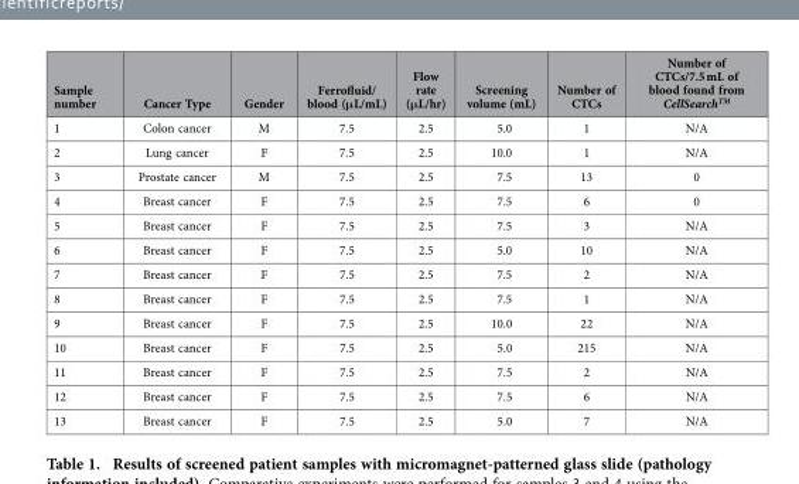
<table><thead><tr><td>Sample number</td><td>Cancer Type</td><td>Gender</td><td>Ferrofluid/ blood (μL/mL)</td><td>Flow rate (μL/hr)</td><td>Screening volume (mL)</td><td>Number of CTCs</td><td>Number of CTCs/7.5 mL of blood found from CellSearch<sup>TM</sup></td></tr></thead><tbody><tr><td>1</td><td>Colon cancer</td><td>M</td><td>7.5</td><td>2.5</td><td>5.0</td><td>1</td><td>N/A</td></tr><tr><td>2</td><td>Lung cancer</td><td>F</td><td>7.5</td><td>2.5</td><td>10.0</td><td>1</td><td>N/A</td></tr><tr><td>3</td><td>Prostate cancer</td><td>M</td><td>7.5</td><td>2.5</td><td>7.5</td><td>13</td><td>0</td></tr><tr><td>4</td><td>Breast cancer</td><td>F</td><td>7.5</td><td>2.5</td><td>7.5</td><td>6</td><td>0</td></tr><tr><td>5</td><td>Breast cancer</td><td>F</td><td>7.5</td><td>2.5</td><td>7.5</td><td>3</td><td>N/A</td></tr><tr><td>6</td><td>Breast cancer</td><td>F</td><td>7.5</td><td>2.5</td><td>5.0</td><td>10</td><td>N/A</td></tr><tr><td>7</td><td>Breast cancer</td><td>F</td><td>7.5</td><td>2.5</td><td>7.5</td><td>2</td><td>N/A</td></tr><tr><td>8</td><td>Breast cancer</td><td>F</td><td>7.5</td><td>2.5</td><td>7.5</td><td>1</td><td>N/A</td></tr><tr><td>9</td><td>Breast cancer</td><td>F</td><td>7.5</td><td>2.5</td><td>10.0</td><td>22</td><td>N/A</td></tr><tr><td>10</td><td>Breast cancer</td><td>F</td><td>7.5</td><td>2.5</td><td>5.0</td><td>215</td><td>N/A</td></tr><tr><td>11</td><td>Breast cancer</td><td>F</td><td>7.5</td><td>2.5</td><td>7.5</td><td>2</td><td>N/A</td></tr><tr><td>12</td><td>Breast cancer</td><td>F</td><td>7.5</td><td>2.5</td><td>7.5</td><td>6</td><td>N/A</td></tr><tr><td>13</td><td>Breast cancer</td><td>F</td><td>7.5</td><td>2.5</td><td>5.0</td><td>7</td><td>N/A</td></tr></tbody></table>